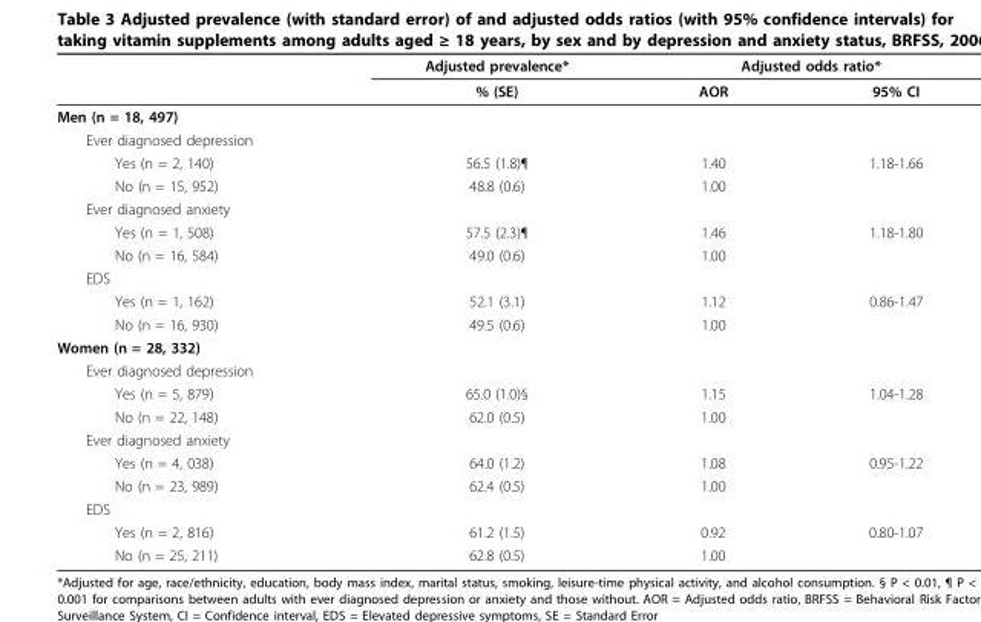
<table><thead><tr><td rowspan="2"></td><td rowspan="2">Adjusted prevalence* % (SE)</td><td colspan="2">Adjusted odds ratio*</td></tr><tr><td>AOR</td><td>95% CI</td></tr></thead><tbody><tr><td colspan="4">Men (n = 18, 497)</td></tr><tr><td colspan="4">Ever diagnosed depression</td></tr><tr><td>Yes (n = 2, 140)</td><td>56.5 (1.8)¶</td><td>1.40</td><td>1.18-1.66</td></tr><tr><td>No (n = 15, 952)</td><td>48.8 (0.6)</td><td>1.00</td><td></td></tr><tr><td colspan="4">Ever diagnosed anxiety</td></tr><tr><td>Yes (n = 1, 508)</td><td>57.5 (2.3)¶</td><td>1.46</td><td>1.18-1.80</td></tr><tr><td>No (n = 16, 584)</td><td>49.0 (0.6)</td><td>1.00</td><td></td></tr><tr><td colspan="4">EDS</td></tr><tr><td>Yes (n = 1, 162)</td><td>52.1 (3.1)</td><td>1.12</td><td>0.86-1.47</td></tr><tr><td>No (n = 16, 930)</td><td>49.5 (0.6)</td><td>1.00</td><td></td></tr><tr><td colspan="4">Women (n = 28, 332)</td></tr><tr><td colspan="4">Ever diagnosed depression</td></tr><tr><td>Yes (n = 5, 879)</td><td>65.0 (1.0)§</td><td>1.15</td><td>1.04-1.28</td></tr><tr><td>No (n = 22, 148)</td><td>62.0 (0.5)</td><td>1.00</td><td></td></tr><tr><td colspan="4">Ever diagnosed anxiety</td></tr><tr><td>Yes (n = 4, 038)</td><td>64.0 (1.2)</td><td>1.08</td><td>0.95-1.22</td></tr><tr><td>No (n = 23, 989)</td><td>62.4 (0.5)</td><td>1.00</td><td></td></tr><tr><td colspan="4">EDS</td></tr><tr><td>Yes (n = 2, 816)</td><td>61.2 (1.5)</td><td>0.92</td><td>0.80-1.07</td></tr><tr><td>No (n = 25, 211)</td><td>62.8 (0.5)</td><td>1.00</td><td></td></tr></tbody></table>